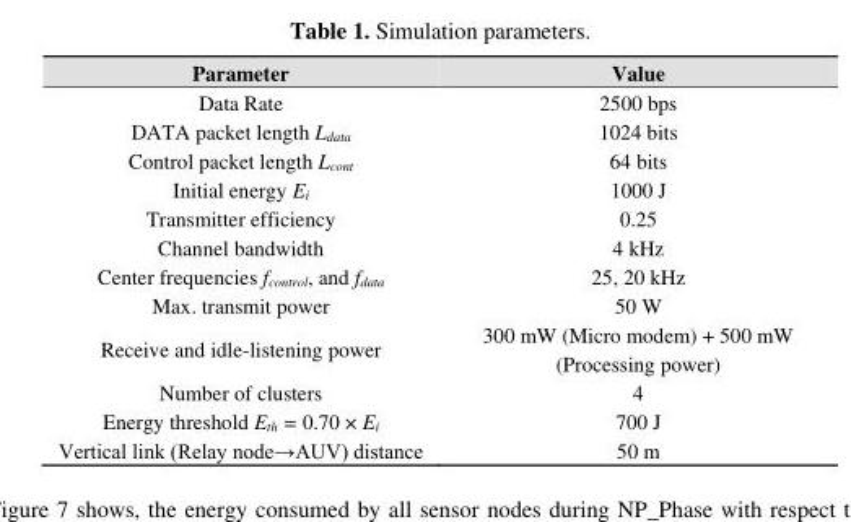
<table><thead><tr><td>Parameter</td><td>Value</td></tr></thead><tbody><tr><td>Data Rate</td><td>2500 bps</td></tr><tr><td>DATA packet length L<sub>data</sub></td><td>1024 bits</td></tr><tr><td>Control packet length L<sub>cont</sub></td><td>64 bits</td></tr><tr><td>Initial energy E<sub>i</sub></td><td>1000 J</td></tr><tr><td>Transmitter efficiency</td><td>0.25</td></tr><tr><td>Channel bandwidth</td><td>4 kHz</td></tr><tr><td>Center frequencies f<sub>control</sub>, and f<sub>data</sub></td><td>25, 20 kHz</td></tr><tr><td>Max. transmit power</td><td>50 W</td></tr><tr><td>Receive and idle-listening power</td><td>300 mW (Micro modem) + 500 mW (Processing power)</td></tr><tr><td>Number of clusters</td><td>4</td></tr><tr><td>Energy threshold E<sub>th</sub> = 0.70 × E<sub>i</sub></td><td>700 J</td></tr><tr><td>Vertical link (Relay node→AUV) distance</td><td>50 m</td></tr></tbody></table>